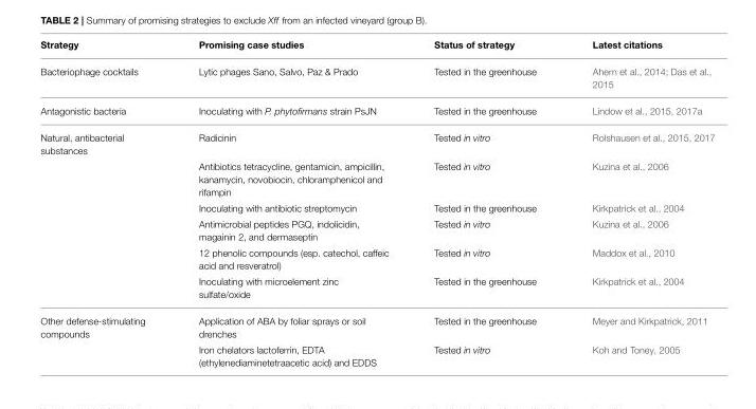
<table><thead><tr><td>Strategy</td><td>Promising case studies</td><td>Status of strategy</td><td>Latest citations</td></tr></thead><tbody><tr><td>Bacteriophage cocktails</td><td>Lytic phages Sano, Salvo, Paz &amp; Prado</td><td>Tested in the greenhouse</td><td>Ahern et al., 2014; Das et al., 2015</td></tr><tr><td>Antagonistic bacteria</td><td>Inoculating with P. phytofirmans strain PsJN</td><td>Tested in the greenhouse</td><td>Lindow et al., 2015, 2017a</td></tr><tr><td rowspan="6">Natural, antibacterial substances</td><td>Radicinin</td><td>Tested in vitro</td><td>Rolshausen et al., 2015, 2017</td></tr><tr><td>Antibiotics tetracycline, gentamicin, ampicillin, kanamycin, novobiocin, chloramphenicol and rifampin</td><td>Tested in vitro</td><td>Kuzina et al., 2006</td></tr><tr><td>Inoculating with antibiotic streptomycin</td><td>Tested in the greenhouse</td><td>Kirkpatrick et al., 2004</td></tr><tr><td>Antimicrobial peptides PGQ, indolicidin, magainin 2, and dermaseptin</td><td>Tested in vitro</td><td>Kuzina et al., 2006</td></tr><tr><td>12 phenolic compounds (esp. catechol, caffeic acid and resveratrol)</td><td>Tested in vitro</td><td>Maddox et al., 2010</td></tr><tr><td>Inoculating with microelement zinc sulfate/oxide</td><td>Tested in the greenhouse</td><td>Kirkpatrick et al., 2004</td></tr><tr><td rowspan="2">Other defense-stimulating compounds</td><td>Application of ABA by foliar sprays or soil drenches</td><td>Tested in the greenhouse</td><td>Meyer and Kirkpatrick, 2011</td></tr><tr><td>Iron chelators lactoferrin, EDTA (ethylenediaminetetraacetic acid) and EDDS</td><td>Tested in vitro</td><td>Koh and Toney, 2005</td></tr></tbody></table>